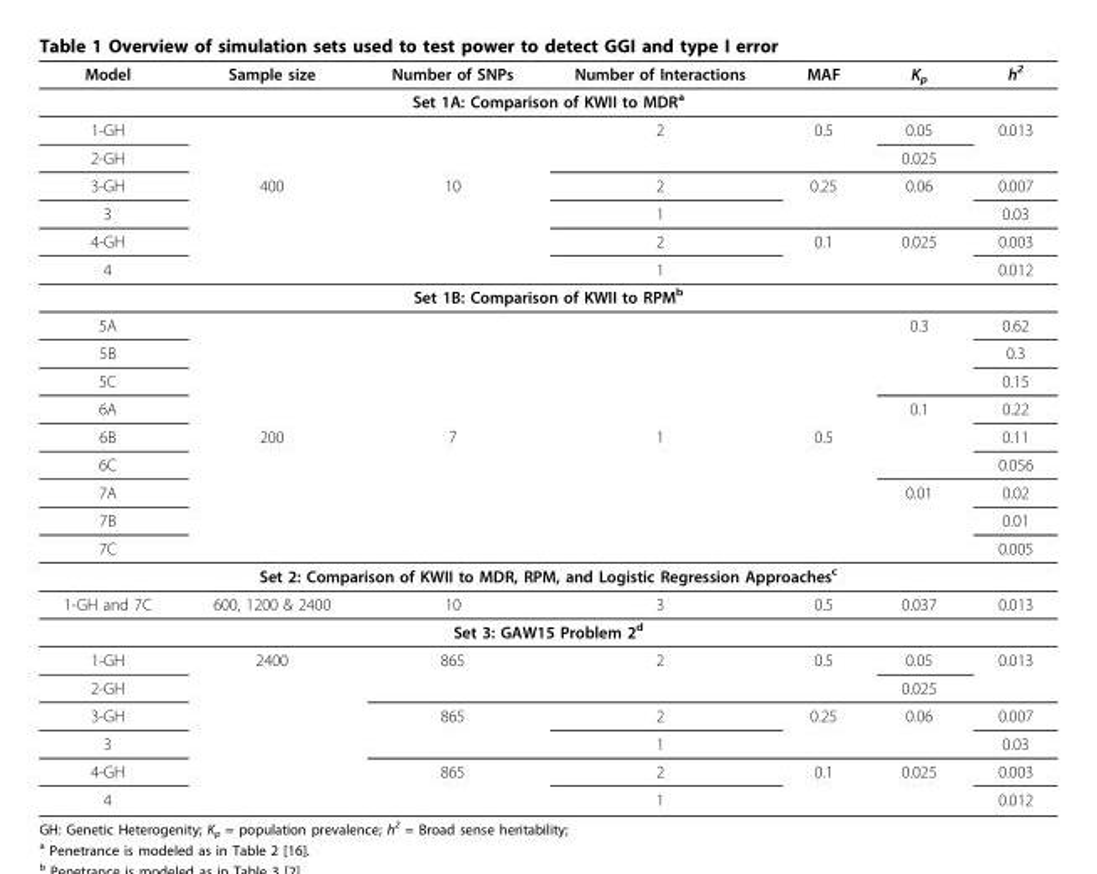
<table><thead><tr><td>Model</td><td>Sample size</td><td>Number of SNPs</td><td>Number of Interactions</td><td>MAF</td><td>K<sub>p</sub></td><td>h<sup>2</sup></td></tr></thead><tbody><tr><td colspan="7">Set 1A: Comparison of KWII to MDR<sup>a</sup></td></tr><tr><td>1-GH</td><td></td><td></td><td>2</td><td>0.5</td><td>0.05</td><td>0.013</td></tr><tr><td>2-GH</td><td></td><td></td><td></td><td></td><td>0.025</td><td></td></tr><tr><td>3-GH</td><td>400</td><td>10</td><td>2</td><td>0.25</td><td>0.06</td><td>0.007</td></tr><tr><td>3</td><td></td><td></td><td>1</td><td></td><td></td><td>0.03</td></tr><tr><td>4-GH</td><td></td><td></td><td>2</td><td>0.1</td><td>0.025</td><td>0.003</td></tr><tr><td>4</td><td></td><td></td><td>1</td><td></td><td></td><td>0.012</td></tr><tr><td colspan="7">Set 1B: Comparison of KWII to RPM<sup>b</sup></td></tr><tr><td>5A</td><td></td><td></td><td></td><td></td><td>0.3</td><td>0.62</td></tr><tr><td>5B</td><td></td><td></td><td></td><td></td><td></td><td>0.3</td></tr><tr><td>5C</td><td></td><td></td><td></td><td></td><td></td><td>0.15</td></tr><tr><td>6A</td><td></td><td></td><td></td><td></td><td>0.1</td><td>0.22</td></tr><tr><td>6B</td><td>200</td><td>7</td><td>1</td><td>0.5</td><td></td><td>0.11</td></tr><tr><td>6C</td><td></td><td></td><td></td><td></td><td></td><td>0.056</td></tr><tr><td>7A</td><td></td><td></td><td></td><td></td><td>0.01</td><td>0.02</td></tr><tr><td>7B</td><td></td><td></td><td></td><td></td><td></td><td>0.01</td></tr><tr><td>7C</td><td></td><td></td><td></td><td></td><td></td><td>0.005</td></tr><tr><td colspan="7">Set 2: Comparison of KWII to MDR, RPM, and Logistic Regression Approaches<sup>c</sup></td></tr><tr><td>1-GH and 7C</td><td>600, 1200 &amp; 2400</td><td>10</td><td>3</td><td>0.5</td><td>0.037</td><td>0.013</td></tr><tr><td colspan="7">Set 3: GAW15 Problem 2<sup>d</sup></td></tr><tr><td>1-GH</td><td>2400</td><td>865</td><td>2</td><td>0.5</td><td>0.05</td><td>0.013</td></tr><tr><td>2-GH</td><td></td><td></td><td></td><td></td><td>0.025</td><td></td></tr><tr><td>3-GH</td><td></td><td>865</td><td>2</td><td>0.25</td><td>0.06</td><td>0.007</td></tr><tr><td>3</td><td></td><td></td><td>1</td><td></td><td></td><td>0.03</td></tr><tr><td>4-GH</td><td></td><td>865</td><td>2</td><td>0.1</td><td>0.025</td><td>0.003</td></tr><tr><td>4</td><td></td><td></td><td>1</td><td></td><td></td><td>0.012</td></tr></tbody></table>